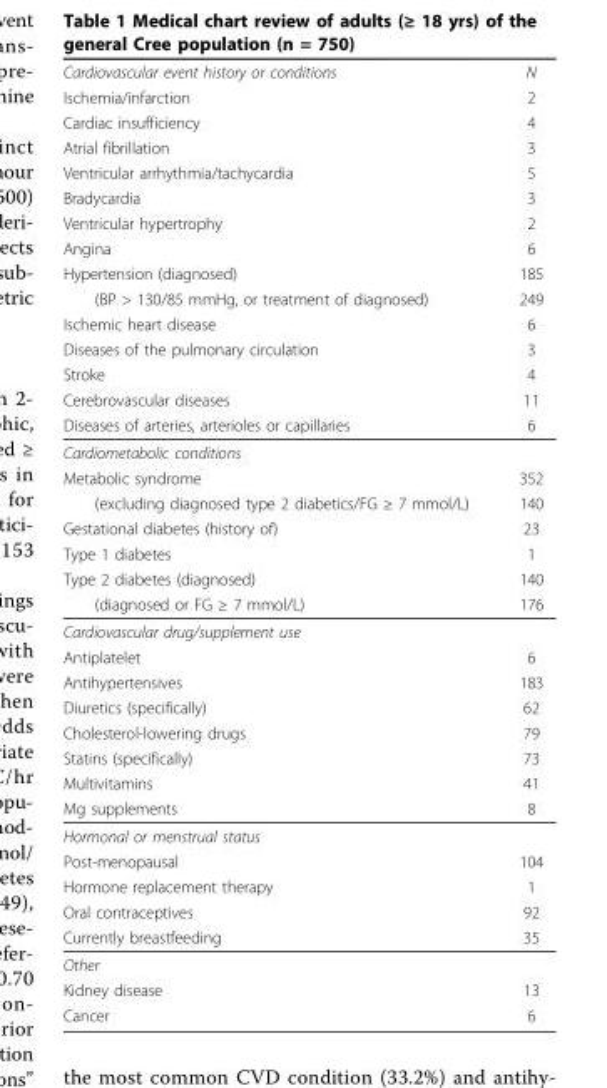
<table><thead><tr><td rowspan="15">Cardiovascular event history or conditions Ischemia/infarction Cardiac insufficiency Atrial fibrillation Ventricular arrhythmia/tachycardia Bradycardia Ventricular hypertrophy Angina Hypertension (diagnosed) (BP &gt; 130/85 mmHg, or treatment of diagnosed) Ischemic heart disease Diseases of the pulmonary circulation Stroke Cerebrovascular diseases Diseases of arteries, arterioles or capillaries</td><td rowspan="15">N 2 4 3 5 3 2 6 185 249 6 3 4 11 6</td></tr><tr></tr><tr></tr><tr></tr><tr></tr><tr></tr><tr></tr><tr></tr><tr></tr><tr></tr><tr></tr><tr></tr><tr></tr><tr></tr><tr></tr></thead><tbody><tr><td colspan="2">Cardiometabolic conditions</td></tr><tr><td>Metabolic syndrome</td><td>352</td></tr><tr><td>(excluding diagnosed type 2 diabetics/FG ≥ 7 mmol/L)</td><td>140</td></tr><tr><td>Gestational diabetes (history of)</td><td>23</td></tr><tr><td>Type 1 diabetes</td><td>1</td></tr><tr><td>Type 2 diabetes (diagnosed)</td><td>140</td></tr><tr><td>(diagnosed or FG ≥ 7 mmol/L)</td><td>176</td></tr><tr><td colspan="2">Cardiovascular drug/supplement use</td></tr><tr><td>Antiplatelet</td><td>6</td></tr><tr><td>Antihypertensives</td><td>183</td></tr><tr><td>Diuretics (specifically)</td><td>62</td></tr><tr><td>Cholesterol-lowering drugs</td><td>79</td></tr><tr><td>Statins (specifically)</td><td>73</td></tr><tr><td>Multivitamins</td><td>41</td></tr><tr><td>Mg supplements</td><td>8</td></tr><tr><td colspan="2">Hormonal or menstrual status</td></tr><tr><td>Post-menopausal</td><td>104</td></tr><tr><td>Hormone replacement therapy</td><td>1</td></tr><tr><td>Oral contraceptives</td><td>92</td></tr><tr><td>Currently breastfeeding</td><td>35</td></tr><tr><td colspan="2">Other</td></tr><tr><td>Kidney disease</td><td>13</td></tr><tr><td>Cancer</td><td>6</td></tr></tbody></table>